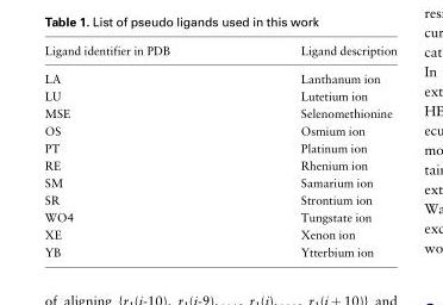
<table><thead><tr><td>Ligand identifier in PDB</td><td>Ligand description</td></tr></thead><tbody><tr><td>LA</td><td>Lanthanum ion</td></tr><tr><td>LU</td><td>Lutetium ion</td></tr><tr><td>MSE</td><td>Selenomethionine</td></tr><tr><td>OS</td><td>Osmium ion</td></tr><tr><td>PT</td><td>Platinum ion</td></tr><tr><td>RE</td><td>Rhenium ion</td></tr><tr><td>SM</td><td>Samarium ion</td></tr><tr><td>SR</td><td>Strontium ion</td></tr><tr><td>WO4</td><td>Tungstate ion</td></tr><tr><td>XE</td><td>Xenon ion</td></tr><tr><td>YB</td><td>Ytterbium ion</td></tr></tbody></table>